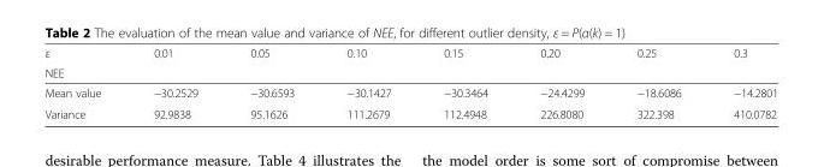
<table><thead><tr><td rowspan="2">ε NEE</td><td rowspan="2">0.01</td><td rowspan="2">0.05</td><td rowspan="2">0.10</td><td rowspan="2">0.15</td><td rowspan="2">0.20</td><td rowspan="2">0.25</td><td rowspan="2">0.3</td></tr><tr></tr></thead><tbody><tr><td>Mean value</td><td>−30.2529</td><td>−30.6593</td><td>−30.1427</td><td>−30.3464</td><td>−24.4299</td><td>−18.6086</td><td>−14.2801</td></tr><tr><td>Variance</td><td>92.9838</td><td>95.1626</td><td>111.2679</td><td>112.4948</td><td>226.8080</td><td>322.398</td><td>410.0782</td></tr></tbody></table>